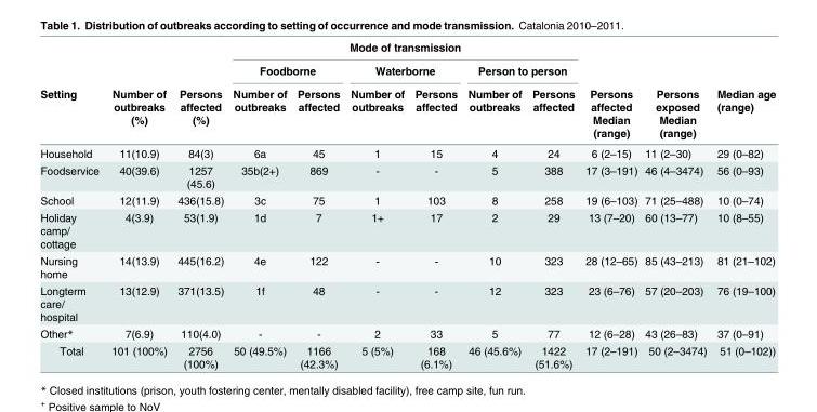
<table><thead><tr><td rowspan="3">Setting</td><td rowspan="3">Number of outbreaks (%)</td><td rowspan="3">Persons affected (%)</td><td colspan="6">Mode of transmission</td><td rowspan="3">Persons affected Median (range)</td><td rowspan="3">Persons exposed Median (range)</td><td rowspan="3">Median age (range)</td></tr><tr><td colspan="2">Foodborne</td><td colspan="2">Waterborne</td><td colspan="2">Person to person</td></tr><tr><td>Number of outbreaks</td><td>Persons affected</td><td>Number of outbreaks</td><td>Persons affected</td><td>Number of outbreaks</td><td>Persons affected</td></tr></thead><tbody><tr><td>Household</td><td>11(10.9)</td><td>84(3)</td><td>6a</td><td>45</td><td>1</td><td>15</td><td>4</td><td>24</td><td>6 (2–15)</td><td>11 (2–30)</td><td>29 (0–82)</td></tr><tr><td>Foodservice</td><td>40(39.6)</td><td>1257 (45.6)</td><td>35b(2+)</td><td>869</td><td>-</td><td>-</td><td>5</td><td>388</td><td>17 (3–191)</td><td>46 (4–3474)</td><td>56 (0–93)</td></tr><tr><td>School</td><td>12(11.9)</td><td>436(15.8)</td><td>3c</td><td>75</td><td>1</td><td>103</td><td>8</td><td>258</td><td>19 (6–103)</td><td>71 (25–488)</td><td>10 (0–74)</td></tr><tr><td>Holiday camp/ cottage</td><td>4(3.9)</td><td>53(1.9)</td><td>1d</td><td>7</td><td>1+</td><td>17</td><td>2</td><td>29</td><td>13 (7–20)</td><td>60 (13–77)</td><td>10 (8–55)</td></tr><tr><td>Nursing home</td><td>14(13.9)</td><td>445(16.2)</td><td>4e</td><td>122</td><td>-</td><td>-</td><td>10</td><td>323</td><td>28 (12–65)</td><td>85 (43–213)</td><td>81 (21–102)</td></tr><tr><td>Longterm care/ hospital</td><td>13(12.9)</td><td>371(13.5)</td><td>1f</td><td>48</td><td>-</td><td>-</td><td>12</td><td>323</td><td>23 (6–76)</td><td>57 (20–203)</td><td>76 (19–100)</td></tr><tr><td>Other*</td><td>7(6.9)</td><td>110(4.0)</td><td>-</td><td>-</td><td>2</td><td>33</td><td>5</td><td>77</td><td>12 (6–28)</td><td>43 (26–83)</td><td>37 (0–91)</td></tr><tr><td>Total</td><td>101 (100%)</td><td>2756 (100%)</td><td>50 (49.5%)</td><td>1166 (42.3%)</td><td>5 (5%)</td><td>168 (6.1%)</td><td>46 (45.6%)</td><td>1422 (51.6%)</td><td>17 (2–191)</td><td>50 (2–3474)</td><td>51 (0–102))</td></tr></tbody></table>